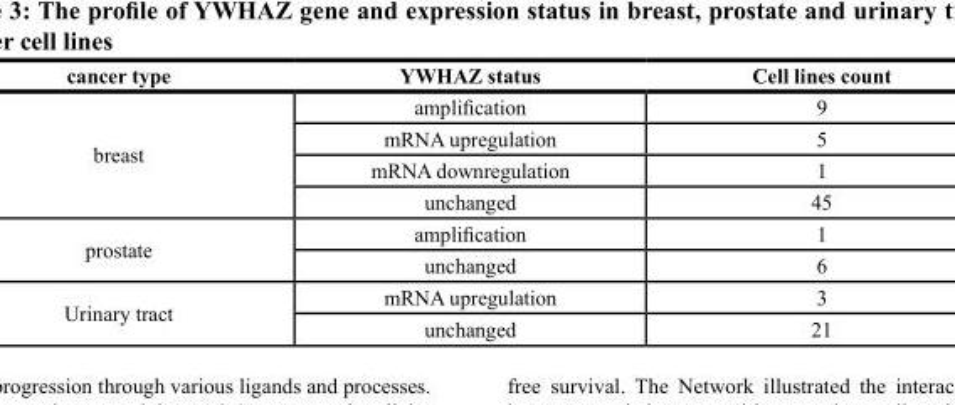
<table><thead><tr><td>cancer type</td><td>YWHAZ status</td><td>Cell lines count</td></tr></thead><tbody><tr><td rowspan="4">breast</td><td>amplification</td><td>9</td></tr><tr><td>mRNA upregulation</td><td>5</td></tr><tr><td>mRNA downregulation</td><td>1</td></tr><tr><td>unchanged</td><td>45</td></tr><tr><td rowspan="2">prostate</td><td>amplification</td><td>1</td></tr><tr><td>unchanged</td><td>6</td></tr><tr><td rowspan="2">Urinary tract</td><td>mRNA upregulation</td><td>3</td></tr><tr><td>unchanged</td><td>21</td></tr></tbody></table>